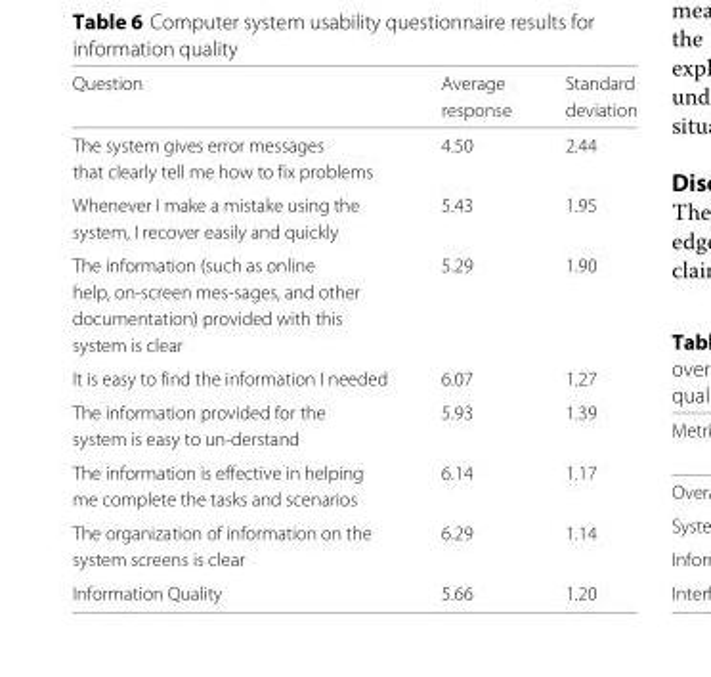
<table><thead><tr><td rowspan="2">Question</td><td rowspan="2">Average response</td><td rowspan="2">Standard deviation</td></tr><tr></tr></thead><tbody><tr><td>The system gives error messages</td><td>4.50</td><td>2.44</td></tr><tr><td colspan="3">that clearly tell me how to fix problems</td></tr><tr><td>Whenever I make a mistake using the</td><td>5.43</td><td>1.95</td></tr><tr><td colspan="3">system, I recover easily and quickly</td></tr><tr><td>The information (such as online</td><td>5.29</td><td>1.90</td></tr><tr><td colspan="3">help, on-screen mes-sages, and other</td></tr><tr><td colspan="3">documentation) provided with this</td></tr><tr><td colspan="3">system is clear</td></tr><tr><td>It is easy to find the information I needed</td><td>6.07</td><td>1.27</td></tr><tr><td>The information provided for the</td><td>5.93</td><td>1.39</td></tr><tr><td colspan="3">system is easy to un-derstand</td></tr><tr><td>The information is effective in helping</td><td>6.14</td><td>1.17</td></tr><tr><td colspan="3">me complete the tasks and scenarios</td></tr><tr><td>The organization of information on the</td><td>6.29</td><td>1.14</td></tr><tr><td colspan="3">system screens is clear</td></tr><tr><td>Information Quality</td><td>5.66</td><td>1.20</td></tr></tbody></table>